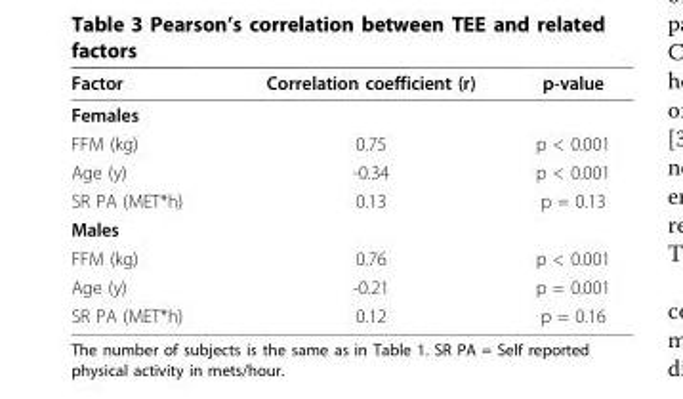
<table><thead><tr><td>Factor</td><td>Correlation coefficient (r)</td><td>p-value</td></tr></thead><tbody><tr><td colspan="3">Females</td></tr><tr><td>FFM (kg)</td><td>0.75</td><td>p &lt; 0.001</td></tr><tr><td>Age (y)</td><td>-0.34</td><td>p &lt; 0.001</td></tr><tr><td>SR PA (MET*h)</td><td>0.13</td><td>p = 0.13</td></tr><tr><td colspan="3">Males</td></tr><tr><td>FFM (kg)</td><td>0.76</td><td>p &lt; 0.001</td></tr><tr><td>Age (y)</td><td>-0.21</td><td>p = 0.001</td></tr><tr><td>SR PA (MET*h)</td><td>0.12</td><td>p = 0.16</td></tr></tbody></table>